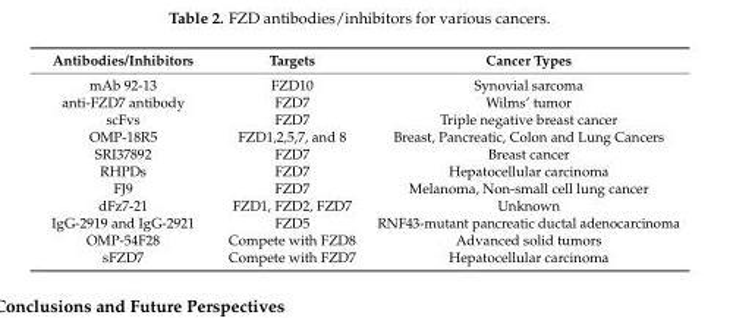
<table><thead><tr><td>Antibodies/Inhibitors</td><td>Targets</td><td>Cancer Types</td></tr></thead><tbody><tr><td>mAb 92-13</td><td>FZD10</td><td>Synovial sarcoma</td></tr><tr><td>anti-FZD7 antibody</td><td>FZD7</td><td>Wilms’ tumor</td></tr><tr><td>scFvs</td><td>FZD7</td><td>Triple negative breast cancer</td></tr><tr><td>OMP-18R5</td><td>FZD1,2,5,7, and 8</td><td>Breast, Pancreatic, Colon and Lung Cancers</td></tr><tr><td>SRI37892</td><td>FZD7</td><td>Breast cancer</td></tr><tr><td>RHPDs</td><td>FZD7</td><td>Hepatocellular carcinoma</td></tr><tr><td>FJ9</td><td>FZD7</td><td>Melanoma, Non-small cell lung cancer</td></tr><tr><td>dFz7-21</td><td>FZD1, FZD2, FZD7</td><td>Unknown</td></tr><tr><td>IgG-2919 and IgG-2921</td><td>FZD5</td><td>RNF43-mutant pancreatic ductal adenocarcinoma</td></tr><tr><td>OMP-54F28</td><td>Compete with FZD8</td><td>Advanced solid tumors</td></tr><tr><td>sFZD7</td><td>Compete with FZD7</td><td>Hepatocellular carcinoma</td></tr></tbody></table>